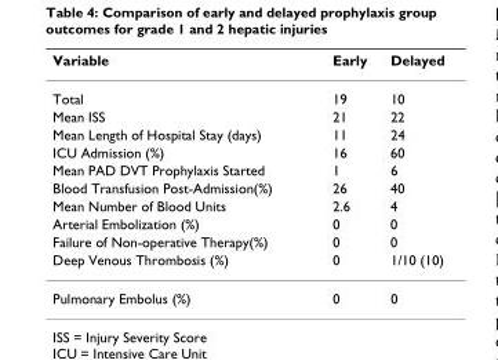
<table><thead><tr><td>Variable</td><td>Early</td><td>Delayed</td></tr></thead><tbody><tr><td>Total</td><td>19</td><td>10</td></tr><tr><td>Mean ISS</td><td>21</td><td>22</td></tr><tr><td>Mean Length of Hospital Stay (days)</td><td>11</td><td>24</td></tr><tr><td>ICU Admission (%)</td><td>16</td><td>60</td></tr><tr><td>Mean PAD DVT Prophylaxis Started</td><td>1</td><td>6</td></tr><tr><td>Blood Transfusion Post-Admission(%)</td><td>26</td><td>40</td></tr><tr><td>Mean Number of Blood Units</td><td>2.6</td><td>4</td></tr><tr><td>Arterial Embolization (%)</td><td>0</td><td>0</td></tr><tr><td>Failure of Non-operative Therapy(%)</td><td>0</td><td>0</td></tr><tr><td>Deep Venous Thrombosis (%)</td><td>0</td><td>1/10 (10)</td></tr><tr><td>Pulmonary Embolus (%)</td><td>0</td><td>0</td></tr></tbody></table>